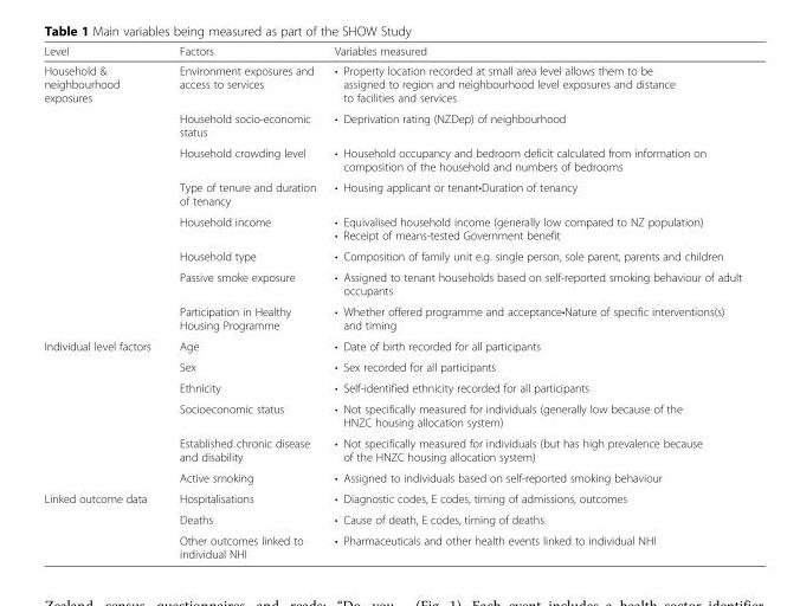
<table><thead><tr><td>Level</td><td>Factors</td><td>Variables measured</td></tr></thead><tbody><tr><td rowspan="8">Household &amp; neighbourhood exposures</td><td>Environment exposures and access to services</td><td>• Property location recorded at small area level allows them to be assigned to region and neighbourhood level exposures and distance to facilities and services</td></tr><tr><td>Household socio-economic status</td><td>• Deprivation rating (NZDep) of neighbourhood</td></tr><tr><td>Household crowding level</td><td>• Household occupancy and bedroom deficit calculated from information on composition of the household and numbers of bedrooms</td></tr><tr><td>Type of tenure and duration of tenancy</td><td>• Housing applicant or tenant•Duration of tenancy</td></tr><tr><td>Household income</td><td>• Equivalised household income (generally low compared to NZ population) • Receipt of means-tested Government benefit</td></tr><tr><td>Household type</td><td>• Composition of family unit e.g. single person, sole parent, parents and children</td></tr><tr><td>Passive smoke exposure</td><td>• Assigned to tenant households based on self-reported smoking behaviour of adult occupants</td></tr><tr><td>Participation in Healthy Housing Programme</td><td>• Whether offered programme and acceptance•Nature of specific interventions(s) and timing</td></tr><tr><td rowspan="6">Individual level factors</td><td>Age</td><td>• Date of birth recorded for all participants</td></tr><tr><td>Sex</td><td>• Sex recorded for all participants</td></tr><tr><td>Ethnicity</td><td>• Self-identified ethnicity recorded for all participants</td></tr><tr><td>Socioeconomic status</td><td>• Not specifically measured for individuals (generally low because of the HNZC housing allocation system)</td></tr><tr><td>Established chronic disease and disability</td><td>• Not specifically measured for individuals (but has high prevalence because of the HNZC housing allocation system)</td></tr><tr><td>Active smoking</td><td>• Assigned to individuals based on self-reported smoking behaviour</td></tr><tr><td rowspan="3">Linked outcome data</td><td>Hospitalisations</td><td>• Diagnostic codes, E codes, timing of admissions, outcomes</td></tr><tr><td>Deaths</td><td>• Cause of death, E codes, timing of deaths</td></tr><tr><td>Other outcomes linked to individual NHI</td><td>• Pharmaceuticals and other health events linked to individual NHI</td></tr></tbody></table>